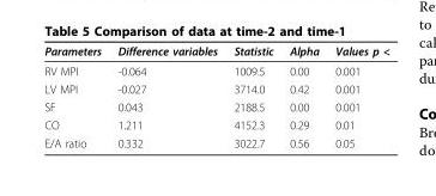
<table><thead><tr><td>Parameters</td><td>Difference variables</td><td>Statistic</td><td>Alpha</td><td>Values p &lt;</td></tr></thead><tbody><tr><td>RV MPI</td><td>-0.064</td><td>1009.5</td><td>0.00</td><td>0.001</td></tr><tr><td>LV MPI</td><td>-0.027</td><td>3714.0</td><td>0.42</td><td>0.001</td></tr><tr><td>SF</td><td>0.043</td><td>2188.5</td><td>0.00</td><td>0.001</td></tr><tr><td>CO</td><td>1.211</td><td>4152.3</td><td>0.29</td><td>0.01</td></tr><tr><td>E/A ratio</td><td>0.332</td><td>3022.7</td><td>0.56</td><td>0.05</td></tr></tbody></table>